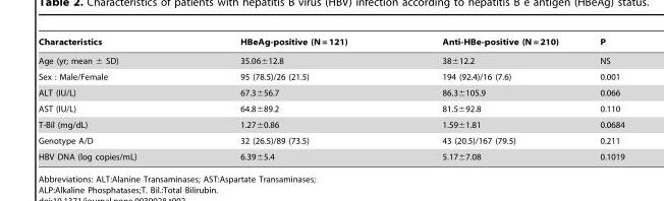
<table><thead><tr><td>Characteristics</td><td>HBeAg-positive (N = 121)</td><td>Anti-HBe-positive (N = 210)</td><td>P</td></tr></thead><tbody><tr><td>Age (yr; mean ± SD)</td><td>35.06±12.8</td><td>38±12.2</td><td>NS</td></tr><tr><td>Sex : Male/Female</td><td>95 (78.5)/26 (21.5)</td><td>194 (92.4)/16 (7.6)</td><td>0.001</td></tr><tr><td>ALT (IU/L)</td><td>67.3±56.7</td><td>86.3±105.9</td><td>0.066</td></tr><tr><td>AST (IU/L)</td><td>64.8±89.2</td><td>81.5±92.8</td><td>0.110</td></tr><tr><td>T-Bil (mg/dL)</td><td>1.27±0.86</td><td>1.59±1.81</td><td>0.0684</td></tr><tr><td>Genotype A/D</td><td>32 (26.5)/89 (73.5)</td><td>43 (20.5)/167 (79.5)</td><td>0.211</td></tr><tr><td>HBV DNA (log copies/mL)</td><td>6.39±5.4</td><td>5.17±7.08</td><td>0.1019</td></tr></tbody></table>